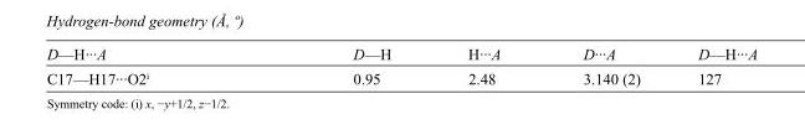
<table><tbody><tr><td>D—H···A</td><td>D—H</td><td>H···A</td><td>D···A</td><td>D—H···A</td></tr><tr><td>C17—H17···O2<sup>i</sup></td><td>0.95</td><td>2.48</td><td>3.140 (2)</td><td>127</td></tr></tbody></table>